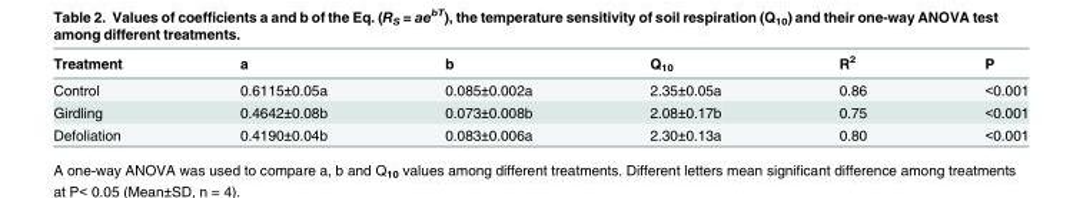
<table><thead><tr><td>Treatment</td><td>a</td><td>b</td><td>Q<sub>10</sub></td><td>R<sup>2</sup></td><td>P</td></tr></thead><tbody><tr><td>Control</td><td>0.6115±0.05a</td><td>0.085±0.002a</td><td>2.35±0.05a</td><td>0.86</td><td>&lt;0.001</td></tr><tr><td>Girdling</td><td>0.4642±0.08b</td><td>0.073±0.008b</td><td>2.08±0.17b</td><td>0.75</td><td>&lt;0.001</td></tr><tr><td>Defoliation</td><td>0.4190±0.04b</td><td>0.083±0.006a</td><td>2.30±0.13a</td><td>0.80</td><td>&lt;0.001</td></tr></tbody></table>